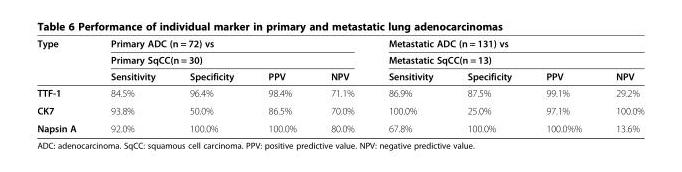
<table><thead><tr><td rowspan="3">Type</td><td rowspan="2" colspan="4">Primary ADC (n = 72) vs Primary SqCC(n = 30)</td><td rowspan="2" colspan="4">Metastatic ADC (n = 131) vs Metastatic SqCC(n = 13)</td></tr><tr></tr><tr><td>Sensitivity</td><td>Specificity</td><td>PPV</td><td>NPV</td><td>Sensitivity</td><td>Specificity</td><td>PPV</td><td>NPV</td></tr></thead><tbody><tr><td>TTF-1</td><td>84.5%</td><td>96.4%</td><td>98.4%</td><td>71.1%</td><td>86.9%</td><td>87.5%</td><td>99.1%</td><td>29.2%</td></tr><tr><td>CK7</td><td>93.8%</td><td>50.0%</td><td>86.5%</td><td>70.0%</td><td>100.0%</td><td>25.0%</td><td>97.1%</td><td>100.0%</td></tr><tr><td>Napsin A</td><td>92.0%</td><td>100.0%</td><td>100.0%</td><td>80.0%</td><td>67.8%</td><td>100.0%</td><td>100.0%%</td><td>13.6%</td></tr></tbody></table>